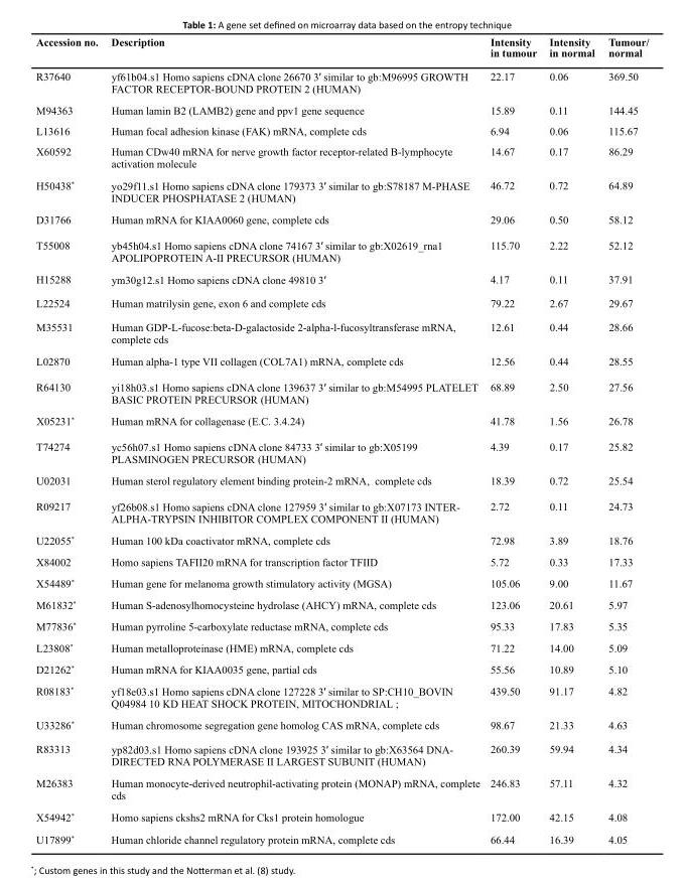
<table><thead><tr><td>Accession no.</td><td>Description</td><td>Intensity in tumour</td><td>Intensity in normal</td><td>Tumour/ normal</td></tr></thead><tbody><tr><td>R37640</td><td>yf61b04.s1 Homo sapiens cDNA clone 26670 3′ similar to gb:M96995 GROWTH FACTOR RECEPTOR-BOUND PROTEIN 2 (HUMAN)</td><td>22.17</td><td>0.06</td><td>369.50</td></tr><tr><td>M94363</td><td>Human lamin B2 (LAMB2) gene and ppv1 gene sequence</td><td>15.89</td><td>0.11</td><td>144.45</td></tr><tr><td>L13616</td><td>Human focal adhesion kinase (FAK) mRNA, complete cds</td><td>6.94</td><td>0.06</td><td>115.67</td></tr><tr><td>X60592</td><td>Human CDw40 mRNA for nerve growth factor receptor-related B-lymphocyte activation molecule</td><td>14.67</td><td>0.17</td><td>86.29</td></tr><tr><td>H50438*</td><td>yo29f11.s1 Homo sapiens cDNA clone 179373 3′ similar to gb:S78187 M-PHASE INDUCER PHOSPHATASE 2 (HUMAN)</td><td>46.72</td><td>0.72</td><td>64.89</td></tr><tr><td>D31766</td><td>Human mRNA for KIAA0060 gene, complete cds</td><td>29.06</td><td>0.50</td><td>58.12</td></tr><tr><td>T55008</td><td>yb45h04.s1 Homo sapiens cDNA clone 74167 3′ similar to gb:X02619_rna1 APOLIPOPROTEIN A-II PRECURSOR (HUMAN)</td><td>115.70</td><td>2.22</td><td>52.12</td></tr><tr><td>H15288</td><td>ym30g12.s1 Homo sapiens cDNA clone 49810 3′</td><td>4.17</td><td>0.11</td><td>37.91</td></tr><tr><td>L22524</td><td>Human matrilysin gene, exon 6 and complete cds</td><td>79.22</td><td>2.67</td><td>29.67</td></tr><tr><td>M35531</td><td>Human GDP-L-fucose:beta-D-galactoside 2-alpha-l-fucosyltransferase mRNA, complete cds</td><td>12.61</td><td>0.44</td><td>28.66</td></tr><tr><td>L02870</td><td>Human alpha-1 type VII collagen (COL7A1) mRNA, complete cds</td><td>12.56</td><td>0.44</td><td>28.55</td></tr><tr><td>R64130</td><td>yi18h03.s1 Homo sapiens cDNA clone 139637 3′ similar to gb:M54995 PLATELET BASIC PROTEIN PRECURSOR (HUMAN)</td><td>68.89</td><td>2.50</td><td>27.56</td></tr><tr><td>X05231*</td><td>Human mRNA for collagenase (E.C. 3.4.24)</td><td>41.78</td><td>1.56</td><td>26.78</td></tr><tr><td>T74274</td><td>yc56h07.s1 Homo sapiens cDNA clone 84733 3′ similar to gb:X05199 PLASMINOGEN PRECURSOR (HUMAN)</td><td>4.39</td><td>0.17</td><td>25.82</td></tr><tr><td>U02031</td><td>Human sterol regulatory element binding protein-2 mRNA, complete cds</td><td>18.39</td><td>0.72</td><td>25.54</td></tr><tr><td>R09217</td><td>yf26b08.s1 Homo sapiens cDNA clone 127959 3′ similar to gb:X07173 INTER- ALPHA-TRYPSIN INHIBITOR COMPLEX COMPONENT II (HUMAN)</td><td>2.72</td><td>0.11</td><td>24.73</td></tr><tr><td>U22055*</td><td>Human 100 kDa coactivator mRNA, complete cds</td><td>72.98</td><td>3.89</td><td>18.76</td></tr><tr><td>X84002</td><td>Homo sapiens TAFII20 mRNA for transcription factor TFIID</td><td>5.72</td><td>0.33</td><td>17.33</td></tr><tr><td>X54489*</td><td>Human gene for melanoma growth stimulatory activity (MGSA)</td><td>105.06</td><td>9.00</td><td>11.67</td></tr><tr><td>M61832*</td><td>Human S-adenosylhomocysteine hydrolase (AHCY) mRNA, complete cds</td><td>123.06</td><td>20.61</td><td>5.97</td></tr><tr><td>M77836*</td><td>Human pyrroline 5-carboxylate reductase mRNA, complete cds</td><td>95.33</td><td>17.83</td><td>5.35</td></tr><tr><td>L23808*</td><td>Human metalloproteinase (HME) mRNA, complete cds</td><td>71.22</td><td>14.00</td><td>5.09</td></tr><tr><td>D21262*</td><td>Human mRNA for KIAA0035 gene, partial cds</td><td>55.56</td><td>10.89</td><td>5.10</td></tr><tr><td>R08183*</td><td>yf18e03.s1 Homo sapiens cDNA clone 127228 3′ similar to SP:CH10_BOVIN Q04984 10 KD HEAT SHOCK PROTEIN, MITOCHONDRIAL ;</td><td>439.50</td><td>91.17</td><td>4.82</td></tr><tr><td>U33286*</td><td>Human chromosome segregation gene homolog CAS mRNA, complete cds</td><td>98.67</td><td>21.33</td><td>4.63</td></tr><tr><td>R83313</td><td>yp82d03.s1 Homo sapiens cDNA clone 193925 3′ similar to gb:X63564 DNA- DIRECTED RNA POLYMERASE II LARGEST SUBUNIT (HUMAN)</td><td>260.39</td><td>59.94</td><td>4.34</td></tr><tr><td>M26383</td><td>Human monocyte-derived neutrophil-activating protein (MONAP) mRNA, complete cds</td><td>246.83</td><td>57.11</td><td>4.32</td></tr><tr><td>X54942*</td><td>Homo sapiens ckshs2 mRNA for Cks1 protein homologue</td><td>172.00</td><td>42.15</td><td>4.08</td></tr><tr><td>U17899*</td><td>Human chloride channel regulatory protein mRNA, complete cds</td><td>66.44</td><td>16.39</td><td>4.05</td></tr></tbody></table>